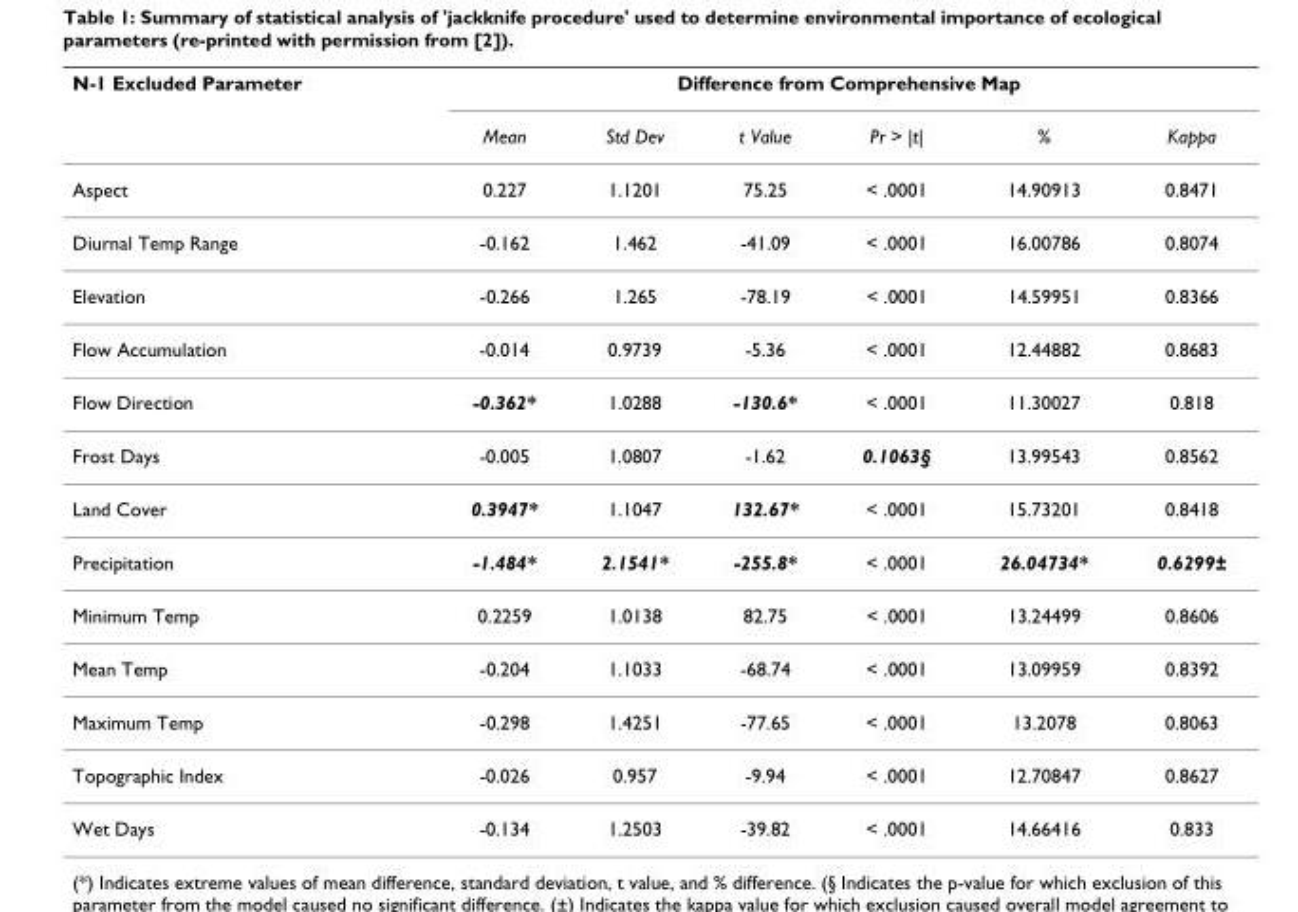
<table><thead><tr><td rowspan="2">N-1 Excluded Parameter</td><td colspan="6">Difference from Comprehensive Map</td></tr><tr><td>Mean</td><td>Std Dev</td><td>t Value</td><td>Pr &gt; |t|</td><td>%</td><td>Kappa</td></tr></thead><tbody><tr><td>Aspect</td><td>0.227</td><td>1.1201</td><td>75.25</td><td>&lt; .0001</td><td>14.90913</td><td>0.8471</td></tr><tr><td>Diurnal Temp Range</td><td>-0.162</td><td>1.462</td><td>-41.09</td><td>&lt; .0001</td><td>16.00786</td><td>0.8074</td></tr><tr><td>Elevation</td><td>-0.266</td><td>1.265</td><td>-78.19</td><td>&lt; .0001</td><td>14.59951</td><td>0.8366</td></tr><tr><td>Flow Accumulation</td><td>-0.014</td><td>0.9739</td><td>-5.36</td><td>&lt; .0001</td><td>12.44882</td><td>0.8683</td></tr><tr><td>Flow Direction</td><td>-0.362*</td><td>1.0288</td><td>-130.6*</td><td>&lt; .0001</td><td>11.30027</td><td>0.818</td></tr><tr><td>Frost Days</td><td>-0.005</td><td>1.0807</td><td>-1.62</td><td>0.1063§</td><td>13.99543</td><td>0.8562</td></tr><tr><td>Land Cover</td><td>0.3947*</td><td>1.1047</td><td>132.67*</td><td>&lt; .0001</td><td>15.73201</td><td>0.8418</td></tr><tr><td>Precipitation</td><td>-1.484*</td><td>2.1541*</td><td>-255.8*</td><td>&lt; .0001</td><td>26.04734*</td><td>0.6299±</td></tr><tr><td>Minimum Temp</td><td>0.2259</td><td>1.0138</td><td>82.75</td><td>&lt; .0001</td><td>13.24499</td><td>0.8606</td></tr><tr><td>Mean Temp</td><td>-0.204</td><td>1.1033</td><td>-68.74</td><td>&lt; .0001</td><td>13.09959</td><td>0.8392</td></tr><tr><td>Maximum Temp</td><td>-0.298</td><td>1.4251</td><td>-77.65</td><td>&lt; .0001</td><td>13.2078</td><td>0.8063</td></tr><tr><td>Topographic Index</td><td>-0.026</td><td>0.957</td><td>-9.94</td><td>&lt; .0001</td><td>12.70847</td><td>0.8627</td></tr><tr><td>Wet Days</td><td>-0.134</td><td>1.2503</td><td>-39.82</td><td>&lt; .0001</td><td>14.66416</td><td>0.833</td></tr></tbody></table>